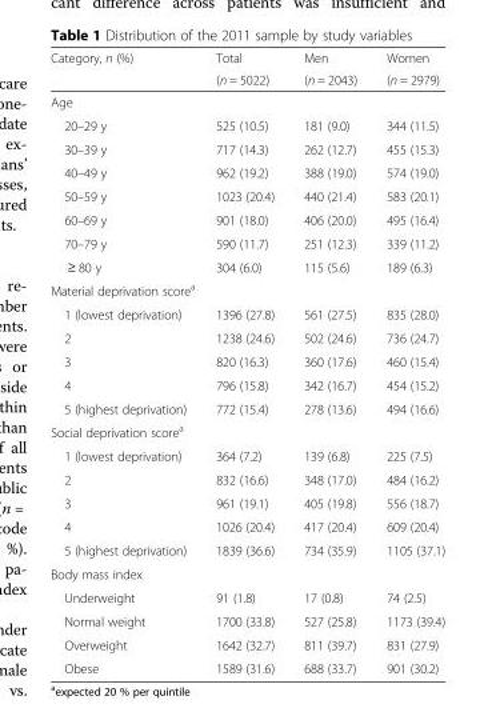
<table><thead><tr><td rowspan="2">Category, n (%)</td><td rowspan="2">Total (n = 5022)</td><td rowspan="2">Men (n = 2043)</td><td rowspan="2">Women (n = 2979)</td></tr><tr></tr></thead><tbody><tr><td colspan="4">Age</td></tr><tr><td>20–29 y</td><td>525 (10.5)</td><td>181 (9.0)</td><td>344 (11.5)</td></tr><tr><td>30–39 y</td><td>717 (14.3)</td><td>262 (12.7)</td><td>455 (15.3)</td></tr><tr><td>40–49 y</td><td>962 (19.2)</td><td>388 (19.0)</td><td>574 (19.0)</td></tr><tr><td>50–59 y</td><td>1023 (20.4)</td><td>440 (21.4)</td><td>583 (20.1)</td></tr><tr><td>60–69 y</td><td>901 (18.0)</td><td>406 (20.0)</td><td>495 (16.4)</td></tr><tr><td>70–79 y</td><td>590 (11.7)</td><td>251 (12.3)</td><td>339 (11.2)</td></tr><tr><td>≥ 80 y</td><td>304 (6.0)</td><td>115 (5.6)</td><td>189 (6.3)</td></tr><tr><td colspan="4">Material deprivation score<sup>a</sup></td></tr><tr><td>1 (lowest deprivation)</td><td>1396 (27.8)</td><td>561 (27.5)</td><td>835 (28.0)</td></tr><tr><td>2</td><td>1238 (24.6)</td><td>502 (24.6)</td><td>736 (24.7)</td></tr><tr><td>3</td><td>820 (16.3)</td><td>360 (17.6)</td><td>460 (15.4)</td></tr><tr><td>4</td><td>796 (15.8)</td><td>342 (16.7)</td><td>454 (15.2)</td></tr><tr><td>5 (highest deprivation)</td><td>772 (15.4)</td><td>278 (13.6)</td><td>494 (16.6)</td></tr><tr><td colspan="4">Social deprivation score<sup>a</sup></td></tr><tr><td>1 (lowest deprivation)</td><td>364 (7.2)</td><td>139 (6.8)</td><td>225 (7.5)</td></tr><tr><td>2</td><td>832 (16.6)</td><td>348 (17.0)</td><td>484 (16.2)</td></tr><tr><td>3</td><td>961 (19.1)</td><td>405 (19.8)</td><td>556 (18.7)</td></tr><tr><td>4</td><td>1026 (20.4)</td><td>417 (20.4)</td><td>609 (20.4)</td></tr><tr><td>5 (highest deprivation)</td><td>1839 (36.6)</td><td>734 (35.9)</td><td>1105 (37.1)</td></tr><tr><td colspan="4">Body mass index</td></tr><tr><td>Underweight</td><td>91 (1.8)</td><td>17 (0.8)</td><td>74 (2.5)</td></tr><tr><td>Normal weight</td><td>1700 (33.8)</td><td>527 (25.8)</td><td>1173 (39.4)</td></tr><tr><td>Overweight</td><td>1642 (32.7)</td><td>811 (39.7)</td><td>831 (27.9)</td></tr><tr><td>Obese</td><td>1589 (31.6)</td><td>688 (33.7)</td><td>901 (30.2)</td></tr></tbody></table>